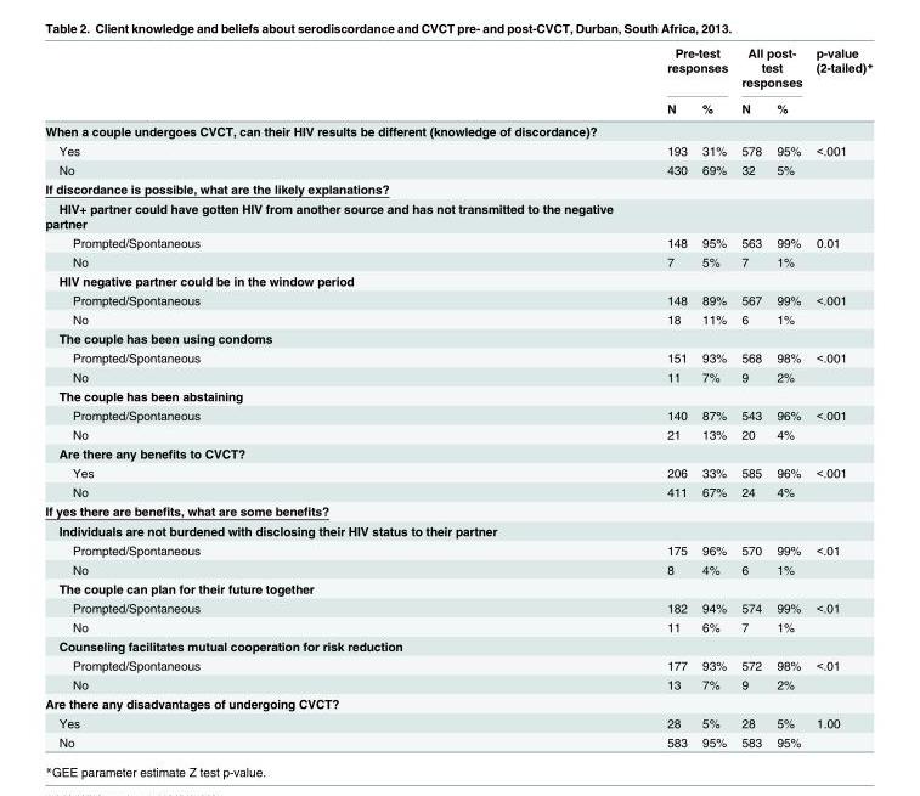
<table><thead><tr><td rowspan="2"></td><td colspan="2">Pre-test responses</td><td colspan="2">All post- test responses</td><td rowspan="2">p-value (2-tailed)*</td></tr><tr><td>N</td><td>%</td><td>N</td><td>%</td></tr></thead><tbody><tr><td colspan="6">When a couple undergoes CVCT, can their HIV results be different (knowledge of discordance)?</td></tr><tr><td>Yes</td><td>193</td><td>31%</td><td>578</td><td>95%</td><td>&lt;.001</td></tr><tr><td>No</td><td>430</td><td>69%</td><td>32</td><td>5%</td><td></td></tr><tr><td colspan="6">If discordance is possible, what are the likely explanations?</td></tr><tr><td colspan="6">HIV+ partner could have gotten HIV from another source and has not transmitted to the negative partner</td></tr><tr><td>Prompted/Spontaneous</td><td>148</td><td>95%</td><td>563</td><td>99%</td><td>0.01</td></tr><tr><td>No</td><td>7</td><td>5%</td><td>7</td><td>1%</td><td></td></tr><tr><td colspan="6">HIV negative partner could be in the window period</td></tr><tr><td>Prompted/Spontaneous</td><td>148</td><td>89%</td><td>567</td><td>99%</td><td>&lt;.001</td></tr><tr><td>No</td><td>18</td><td>11%</td><td>6</td><td>1%</td><td></td></tr><tr><td colspan="6">The couple has been using condoms</td></tr><tr><td>Prompted/Spontaneous</td><td>151</td><td>93%</td><td>568</td><td>98%</td><td>&lt;.001</td></tr><tr><td>No</td><td>11</td><td>7%</td><td>9</td><td>2%</td><td></td></tr><tr><td colspan="6">The couple has been abstaining</td></tr><tr><td>Prompted/Spontaneous</td><td>140</td><td>87%</td><td>543</td><td>96%</td><td>&lt;.001</td></tr><tr><td>No</td><td>21</td><td>13%</td><td>20</td><td>4%</td><td></td></tr><tr><td colspan="6">Are there any benefits to CVCT?</td></tr><tr><td>Yes</td><td>206</td><td>33%</td><td>585</td><td>96%</td><td>&lt;.001</td></tr><tr><td>No</td><td>411</td><td>67%</td><td>24</td><td>4%</td><td></td></tr><tr><td colspan="6">If yes there are benefits, what are some benefits?</td></tr><tr><td colspan="6">Individuals are not burdened with disclosing their HIV status to their partner</td></tr><tr><td>Prompted/Spontaneous</td><td>175</td><td>96%</td><td>570</td><td>99%</td><td>&lt;.01</td></tr><tr><td>No</td><td>8</td><td>4%</td><td>6</td><td>1%</td><td></td></tr><tr><td colspan="6">The couple can plan for their future together</td></tr><tr><td>Prompted/Spontaneous</td><td>182</td><td>94%</td><td>574</td><td>99%</td><td>&lt;.01</td></tr><tr><td>No</td><td>11</td><td>6%</td><td>7</td><td>1%</td><td></td></tr><tr><td colspan="6">Counseling facilitates mutual cooperation for risk reduction</td></tr><tr><td>Prompted/Spontaneous</td><td>177</td><td>93%</td><td>572</td><td>98%</td><td>&lt;.01</td></tr><tr><td>No</td><td>13</td><td>7%</td><td>9</td><td>2%</td><td></td></tr><tr><td colspan="6">Are there any disadvantages of undergoing CVCT?</td></tr><tr><td>Yes</td><td>28</td><td>5%</td><td>28</td><td>5%</td><td>1.00</td></tr><tr><td>No</td><td>583</td><td>95%</td><td>583</td><td>95%</td><td></td></tr></tbody></table>